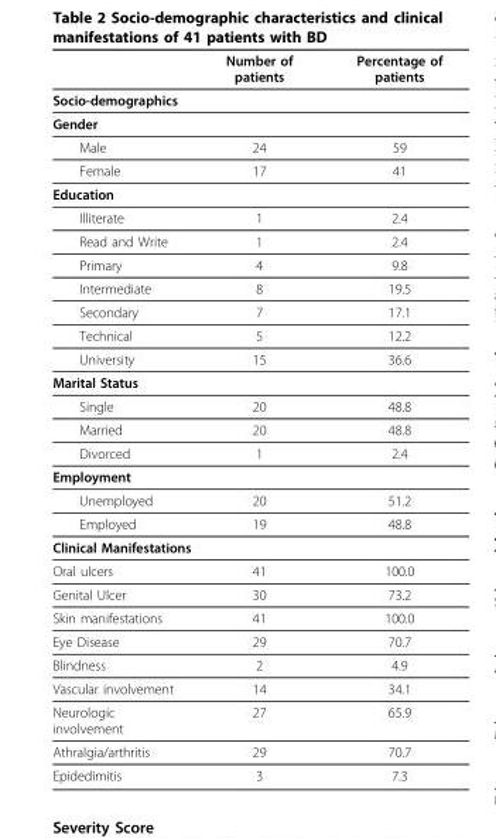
<table><thead><tr><td></td><td>Number of patients</td><td>Percentage of patients</td></tr></thead><tbody><tr><td colspan="3">Socio-demographics</td></tr><tr><td colspan="3">Gender</td></tr><tr><td>Male</td><td>24</td><td>59</td></tr><tr><td>Female</td><td>17</td><td>41</td></tr><tr><td colspan="3">Education</td></tr><tr><td>Illiterate</td><td>1</td><td>2.4</td></tr><tr><td>Read and Write</td><td>1</td><td>2.4</td></tr><tr><td>Primary</td><td>4</td><td>9.8</td></tr><tr><td>Intermediate</td><td>8</td><td>19.5</td></tr><tr><td>Secondary</td><td>7</td><td>17.1</td></tr><tr><td>Technical</td><td>5</td><td>12.2</td></tr><tr><td>University</td><td>15</td><td>36.6</td></tr><tr><td colspan="3">Marital Status</td></tr><tr><td>Single</td><td>20</td><td>48.8</td></tr><tr><td>Married</td><td>20</td><td>48.8</td></tr><tr><td>Divorced</td><td>1</td><td>2.4</td></tr><tr><td colspan="3">Employment</td></tr><tr><td>Unemployed</td><td>20</td><td>51.2</td></tr><tr><td>Employed</td><td>19</td><td>48.8</td></tr><tr><td colspan="3">Clinical Manifestations</td></tr><tr><td>Oral ulcers</td><td>41</td><td>100.0</td></tr><tr><td>Genital Ulcer</td><td>30</td><td>73.2</td></tr><tr><td>Skin manifestations</td><td>41</td><td>100.0</td></tr><tr><td>Eye Disease</td><td>29</td><td>70.7</td></tr><tr><td>Blindness</td><td>2</td><td>4.9</td></tr><tr><td>Vascular involvement</td><td>14</td><td>34.1</td></tr><tr><td>Neurologic involvement</td><td>27</td><td>65.9</td></tr><tr><td>Athralgia/arthritis</td><td>29</td><td>70.7</td></tr><tr><td>Epidedimitis</td><td>3</td><td>7.3</td></tr></tbody></table>